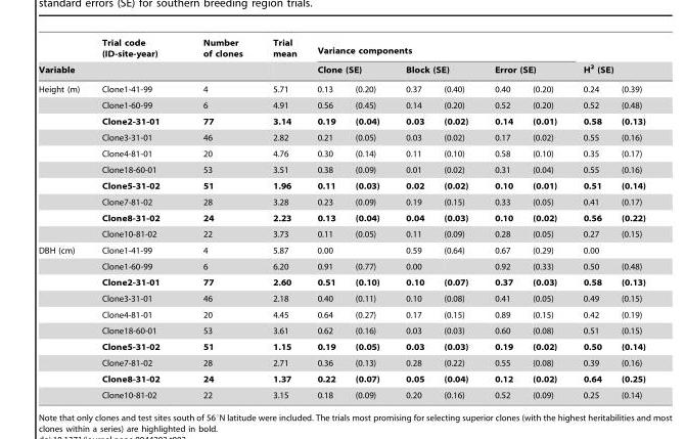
<table><thead><tr><td rowspan="3">Variable Height (m)</td><td rowspan="3">Trial code (ID-site-year) Clone1-41-99</td><td rowspan="3">Number of clones 4</td><td rowspan="3">Trial mean 5.71</td><td colspan="6">Variance components</td><td></td><td></td></tr><tr><td colspan="2">Clone (SE)</td><td colspan="2">Block (SE)</td><td colspan="2">Error (SE)</td><td colspan="2">H<sup>2</sup> (SE)</td></tr><tr><td>0.13</td><td>(0.20)</td><td>0.37</td><td>(0.40)</td><td>0.40</td><td>(0.20)</td><td>0.24</td><td>(0.39)</td></tr></thead><tbody><tr><td></td><td>Clone1-60-99</td><td>6</td><td>4.91</td><td>0.56</td><td>(0.45)</td><td>0.14</td><td>(0.20)</td><td>0.52</td><td>(0.20)</td><td>0.52</td><td>(0.48)</td></tr><tr><td></td><td>Clone2-31-01</td><td>77</td><td>3.14</td><td>0.19</td><td>(0.04)</td><td>0.03</td><td>(0.02)</td><td>0.14</td><td>(0.01)</td><td>0.58</td><td>(0.13)</td></tr><tr><td></td><td>Clone3-31-01</td><td>46</td><td>2.82</td><td>0.21</td><td>(0.05)</td><td>0.03</td><td>(0.02)</td><td>0.17</td><td>(0.02)</td><td>0.55</td><td>(0.16)</td></tr><tr><td></td><td>Clone4-81-01</td><td>20</td><td>4.76</td><td>0.30</td><td>(0.14)</td><td>0.11</td><td>(0.10)</td><td>0.58</td><td>(0.10)</td><td>0.35</td><td>(0.17)</td></tr><tr><td></td><td>Clone18-60-01</td><td>53</td><td>3.51</td><td>0.38</td><td>(0.09)</td><td>0.01</td><td>(0.02)</td><td>0.31</td><td>(0.04)</td><td>0.55</td><td>(0.16)</td></tr><tr><td></td><td>Clone5-31-02</td><td>51</td><td>1.96</td><td>0.11</td><td>(0.03)</td><td>0.02</td><td>(0.02)</td><td>0.10</td><td>(0.01)</td><td>0.51</td><td>(0.14)</td></tr><tr><td></td><td>Clone7-81-02</td><td>28</td><td>3.28</td><td>0.23</td><td>(0.09)</td><td>0.19</td><td>(0.15)</td><td>0.33</td><td>(0.05)</td><td>0.41</td><td>(0.17)</td></tr><tr><td></td><td>Clone8-31-02</td><td>24</td><td>2.23</td><td>0.13</td><td>(0.04)</td><td>0.04</td><td>(0.03)</td><td>0.10</td><td>(0.02)</td><td>0.56</td><td>(0.22)</td></tr><tr><td></td><td>Clone10-81-02</td><td>22</td><td>3.73</td><td>0.11</td><td>(0.05)</td><td>0.11</td><td>(0.09)</td><td>0.28</td><td>(0.05)</td><td>0.27</td><td>(0.15)</td></tr><tr><td rowspan="10">DBH (cm)</td><td>Clone1-41-99</td><td>4</td><td>5.87</td><td>0.00</td><td></td><td>0.59</td><td>(0.64)</td><td>0.67</td><td>(0.29)</td><td>0.00</td><td></td></tr><tr><td>Clone1-60-99</td><td>6</td><td>6.20</td><td>0.91</td><td>(0.77)</td><td>0.00</td><td></td><td>0.92</td><td>(0.33)</td><td>0.50</td><td>(0.48)</td></tr><tr><td>Clone2-31-01</td><td>77</td><td>2.60</td><td>0.51</td><td>(0.10)</td><td>0.10</td><td>(0.07)</td><td>0.37</td><td>(0.03)</td><td>0.58</td><td>(0.13)</td></tr><tr><td>Clone3-31-01</td><td>46</td><td>2.18</td><td>0.40</td><td>(0.11)</td><td>0.10</td><td>(0.08)</td><td>0.41</td><td>(0.05)</td><td>0.49</td><td>(0.15)</td></tr><tr><td>Clone4-81-01</td><td>20</td><td>4.45</td><td>0.64</td><td>(0.27)</td><td>0.17</td><td>(0.15)</td><td>0.89</td><td>(0.15)</td><td>0.42</td><td>(0.19)</td></tr><tr><td>Clone18-60-01</td><td>53</td><td>3.61</td><td>0.62</td><td>(0.16)</td><td>0.03</td><td>(0.03)</td><td>0.60</td><td>(0.08)</td><td>0.51</td><td>(0.15)</td></tr><tr><td>Clone5-31-02</td><td>51</td><td>1.15</td><td>0.19</td><td>(0.05)</td><td>0.03</td><td>(0.03)</td><td>0.19</td><td>(0.02)</td><td>0.50</td><td>(0.14)</td></tr><tr><td>Clone7-81-02</td><td>28</td><td>2.71</td><td>0.36</td><td>(0.13)</td><td>0.28</td><td>(0.22)</td><td>0.55</td><td>(0.08)</td><td>0.39</td><td>(0.16)</td></tr><tr><td>Clone8-31-02</td><td>24</td><td>1.37</td><td>0.22</td><td>(0.07)</td><td>0.05</td><td>(0.04)</td><td>0.12</td><td>(0.02)</td><td>0.64</td><td>(0.25)</td></tr><tr><td>Clone10-81-02</td><td>22</td><td>3.15</td><td>0.18</td><td>(0.09)</td><td>0.20</td><td>(0.16)</td><td>0.52</td><td>(0.09)</td><td>0.25</td><td>(0.14)</td></tr></tbody></table>